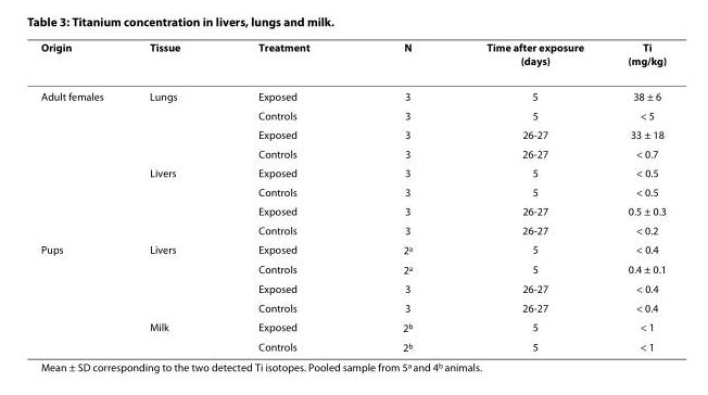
<table><thead><tr><td>Origin</td><td>Tissue</td><td>Treatment</td><td>N</td><td>Time after exposure (days)</td><td>Ti (mg/kg)</td></tr></thead><tbody><tr><td rowspan="8">Adult females</td><td>Lungs</td><td>Exposed</td><td>3</td><td>5</td><td>38 ± 6</td></tr><tr><td></td><td>Controls</td><td>3</td><td>5</td><td>&lt; 5</td></tr><tr><td></td><td>Exposed</td><td>3</td><td>26-27</td><td>33 ± 18</td></tr><tr><td></td><td>Controls</td><td>3</td><td>26-27</td><td>&lt; 0.7</td></tr><tr><td>Livers</td><td>Exposed</td><td>3</td><td>5</td><td>&lt; 0.5</td></tr><tr><td></td><td>Controls</td><td>3</td><td>5</td><td>&lt; 0.5</td></tr><tr><td></td><td>Exposed</td><td>3</td><td>26-27</td><td>0.5 ± 0.3</td></tr><tr><td></td><td>Controls</td><td>3</td><td>26-27</td><td>&lt; 0.2</td></tr><tr><td rowspan="6">Pups</td><td>Livers</td><td>Exposed</td><td>2<sup>a</sup></td><td>5</td><td>&lt; 0.4</td></tr><tr><td></td><td>Controls</td><td>2<sup>a</sup></td><td>5</td><td>0.4 ± 0.1</td></tr><tr><td></td><td>Exposed</td><td>3</td><td>26-27</td><td>&lt; 0.4</td></tr><tr><td></td><td>Controls</td><td>3</td><td>26-27</td><td>&lt; 0.4</td></tr><tr><td>Milk</td><td>Exposed</td><td>2<sup>b</sup></td><td>5</td><td>&lt; 1</td></tr><tr><td></td><td>Controls</td><td>2<sup>b</sup></td><td>5</td><td>&lt; 1</td></tr></tbody></table>